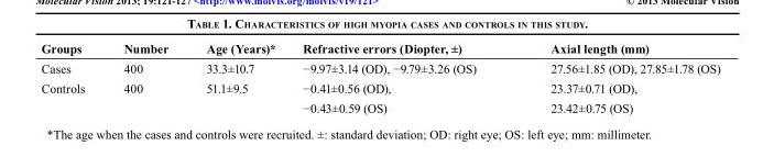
<table><thead><tr><td>Groups</td><td>Number</td><td>Age (Years)*</td><td>Refractive errors (Diopter, ±)</td><td>Axial length (mm)</td></tr></thead><tbody><tr><td>Cases</td><td>400</td><td>33.3±10.7</td><td>−9.97±3.14 (OD), −9.79±3.26 (OS)</td><td>27.56±1.85 (OD), 27.85±1.78 (OS)</td></tr><tr><td rowspan="2">Controls</td><td>400</td><td>51.1±9.5</td><td>−0.41±0.56 (OD),</td><td>23.37±0.71 (OD),</td></tr><tr><td></td><td></td><td>−0.43±0.59 (OS)</td><td>23.42±0.75 (OS)</td></tr></tbody></table>